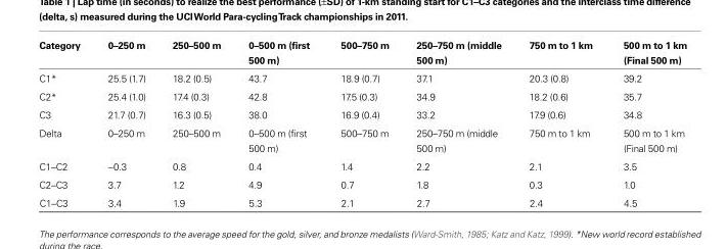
<table><thead><tr><td>Category</td><td>0–250 m</td><td>250–500 m</td><td>0–500 m (first 500 m)</td><td>500–750 m</td><td>250–750 m (middle 500 m)</td><td>750 m to 1 km</td><td>500 m to 1 km (Final 500 m)</td></tr></thead><tbody><tr><td>C1*</td><td>25.5 (1.7)</td><td>18.2 (0.5)</td><td>43.7</td><td>18.9 (0.7)</td><td>37.1</td><td>20.3 (0.8)</td><td>39.2</td></tr><tr><td>C2*</td><td>25.4 (1.0)</td><td>17.4 (0.3)</td><td>42.8</td><td>17.5 (0.3)</td><td>34.9</td><td>18.2 (0.6)</td><td>35.7</td></tr><tr><td>C3</td><td>21.7 (0.7)</td><td>16.3 (0.5)</td><td>38.0</td><td>16.9 (0.4)</td><td>33.2</td><td>17.9 (0.6)</td><td>34.8</td></tr><tr><td>Delta</td><td>0–250 m</td><td>250–500 m</td><td>0–500 m (first 500 m)</td><td>500–750 m</td><td>250–750 m (middle 500 m)</td><td>750 m to 1 km</td><td>500 m to 1 km (Final 500 m)</td></tr><tr><td>C1–C2</td><td>−0.3</td><td>0.8</td><td>0.4</td><td>1.4</td><td>2.2</td><td>2.1</td><td>3.5</td></tr><tr><td>C2–C3</td><td>3.7</td><td>1.2</td><td>4.9</td><td>0.7</td><td>1.8</td><td>0.3</td><td>1.0</td></tr><tr><td>C1–C3</td><td>3.4</td><td>1.9</td><td>5.3</td><td>2.1</td><td>2.7</td><td>2.4</td><td>4.5</td></tr></tbody></table>